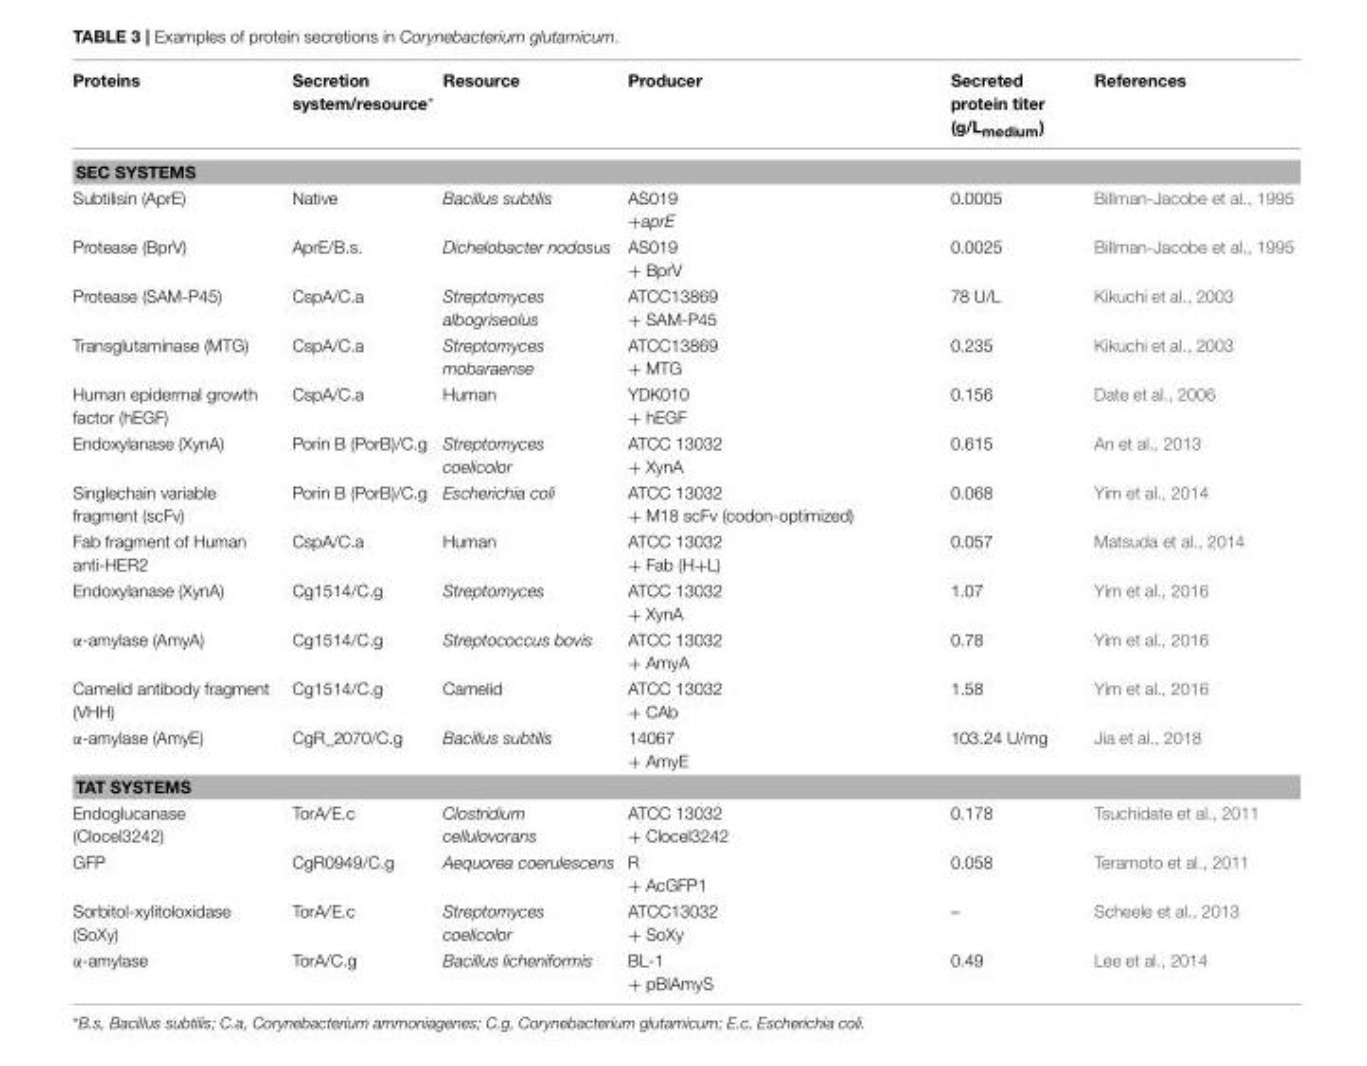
<table><thead><tr><td>Proteins</td><td>Secretion system/resource*</td><td>Resource</td><td>Producer</td><td>Secreted protein titer (g/L<sub>medium</sub>)</td><td>References</td></tr></thead><tbody><tr><td colspan="6">SEC SYSTEMS</td></tr><tr><td>Subtilisin (AprE)</td><td>Native</td><td>Bacillus subtilis</td><td>AS019 +aprE</td><td>0.0005</td><td>Billman-Jacobe et al., 1995</td></tr><tr><td>Protease (BprV)</td><td>AprE/B.s.</td><td>Dichelobacter nodosus</td><td>AS019 + BprV</td><td>0.0025</td><td>Billman-Jacobe et al., 1995</td></tr><tr><td>Protease (SAM-P45)</td><td>CspA/C.a</td><td>Streptomyces albogriseolus</td><td>ATCC13869 + SAM-P45</td><td>78 U/L</td><td>Kikuchi et al., 2003</td></tr><tr><td>Transglutaminase (MTG)</td><td>CspA/C.a</td><td>Streptomyces mobaraense</td><td>ATCC13869 + MTG</td><td>0.235</td><td>Kikuchi et al., 2003</td></tr><tr><td>Human epidermal growth factor (hEGF)</td><td>CspA/C.a</td><td>Human</td><td>YDK010 + hEGF</td><td>0.156</td><td>Date et al., 2006</td></tr><tr><td>Endoxylanase (XynA)</td><td>Porin B (PorB)/C.g</td><td>Streptomyces coelicolor</td><td>ATCC 13032 + XynA</td><td>0.615</td><td>An et al., 2013</td></tr><tr><td>Singlechain variable fragment (scFv)</td><td>Porin B (PorB)/C.g</td><td>Escherichia coli</td><td>ATCC 13032 + M18 scFv (codon-optimized)</td><td>0.068</td><td>Yim et al., 2014</td></tr><tr><td>Fab fragment of Human anti-HER2</td><td>CspA/C.a</td><td>Human</td><td>ATCC 13032 + Fab (H+L)</td><td>0.057</td><td>Matsuda et al., 2014</td></tr><tr><td>Endoxylanase (XynA)</td><td>Cg1514/C.g</td><td>Streptomyces</td><td>ATCC 13032 + XynA</td><td>1.07</td><td>Yim et al., 2016</td></tr><tr><td>α-amylase (AmyA)</td><td>Cg1514/C.g</td><td>Streptococcus bovis</td><td>ATCC 13032 + AmyA</td><td>0.78</td><td>Yim et al., 2016</td></tr><tr><td>Camelid antibody fragment (VHH)</td><td>Cg1514/C.g</td><td>Camelid</td><td>ATCC 13032 + CAb</td><td>1.58</td><td>Yim et al., 2016</td></tr><tr><td>α-amylase (AmyE)</td><td>CgR_2070/C.g</td><td>Bacillus subtilis</td><td>14067 + AmyE</td><td>103.24 U/mg</td><td>Jia et al., 2018</td></tr><tr><td colspan="6">TAT SYSTEMS</td></tr><tr><td>Endoglucanase (Clocel3242)</td><td>TorA/E.c</td><td>Clostridium cellulovorans</td><td>ATCC 13032 + Clocel3242</td><td>0.178</td><td>Tsuchidate et al., 2011</td></tr><tr><td>GFP</td><td>CgR0949/C.g</td><td>Aequorea coerulescens</td><td>R + AcGFP1</td><td>0.058</td><td>Teramoto et al., 2011</td></tr><tr><td>Sorbitol-xylitoloxidase (SoXy)</td><td>TorA/E.c</td><td>Streptomyces coelicolor</td><td>ATCC13032 + SoXy</td><td>–</td><td>Scheele et al., 2013</td></tr><tr><td>α-amylase</td><td>TorA/C.g</td><td>Bacillus licheniformis</td><td>BL-1 + pBlAmyS</td><td>0.49</td><td>Lee et al., 2014</td></tr></tbody></table>